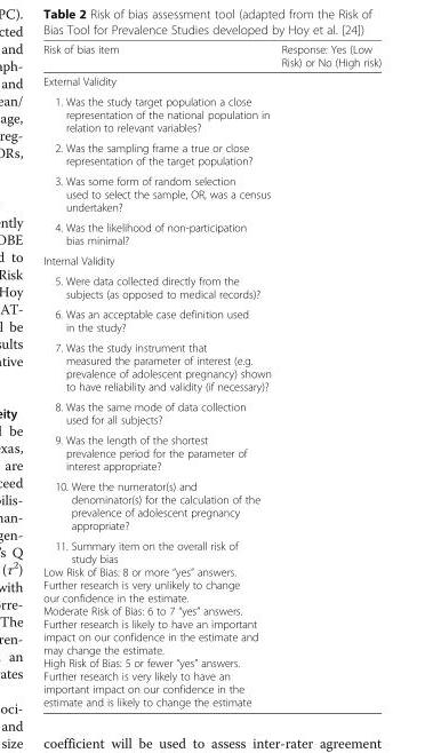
<table><thead><tr><td>Risk of bias item</td><td>Response: Yes (Low Risk) or No (High risk)</td></tr></thead><tbody><tr><td colspan="2">External Validity</td></tr><tr><td colspan="2">1. Was the study target population a close representation of the national population in relation to relevant variables?</td></tr><tr><td colspan="2">2. Was the sampling frame a true or close representation of the target population?</td></tr><tr><td colspan="2">3. Was some form of random selection used to select the sample, OR, was a census undertaken?</td></tr><tr><td colspan="2">4. Was the likelihood of non-participation bias minimal?</td></tr><tr><td colspan="2">Internal Validity</td></tr><tr><td colspan="2">5. Were data collected directly from the subjects (as opposed to medical records)?</td></tr><tr><td colspan="2">6. Was an acceptable case definition used in the study?</td></tr><tr><td colspan="2">7. Was the study instrument that measured the parameter of interest (e.g. prevalence of adolescent pregnancy) shown to have reliability and validity (if necessary)?</td></tr><tr><td colspan="2">8. Was the same mode of data collection used for all subjects?</td></tr><tr><td colspan="2">9. Was the length of the shortest prevalence period for the parameter of interest appropriate?</td></tr><tr><td colspan="2">10. Were the numerator(s) and denominator(s) for the calculation of the prevalence of adolescent pregnancy appropriate?</td></tr><tr><td>11. Summary item on the overall risk of study bias Low Risk of Bias: 8 or more “yes” answers. Further research is very unlikely to change our confidence in the estimate. Moderate Risk of Bias: 6 to 7 “yes” answers. Further research is likely to have an important impact on our confidence in the estimate and may change the estimate. High Risk of Bias: 5 or fewer “yes” answers. Further research is very likely to have an important impact on our confidence in the estimate and is likely to change the estimate</td><td></td></tr></tbody></table>